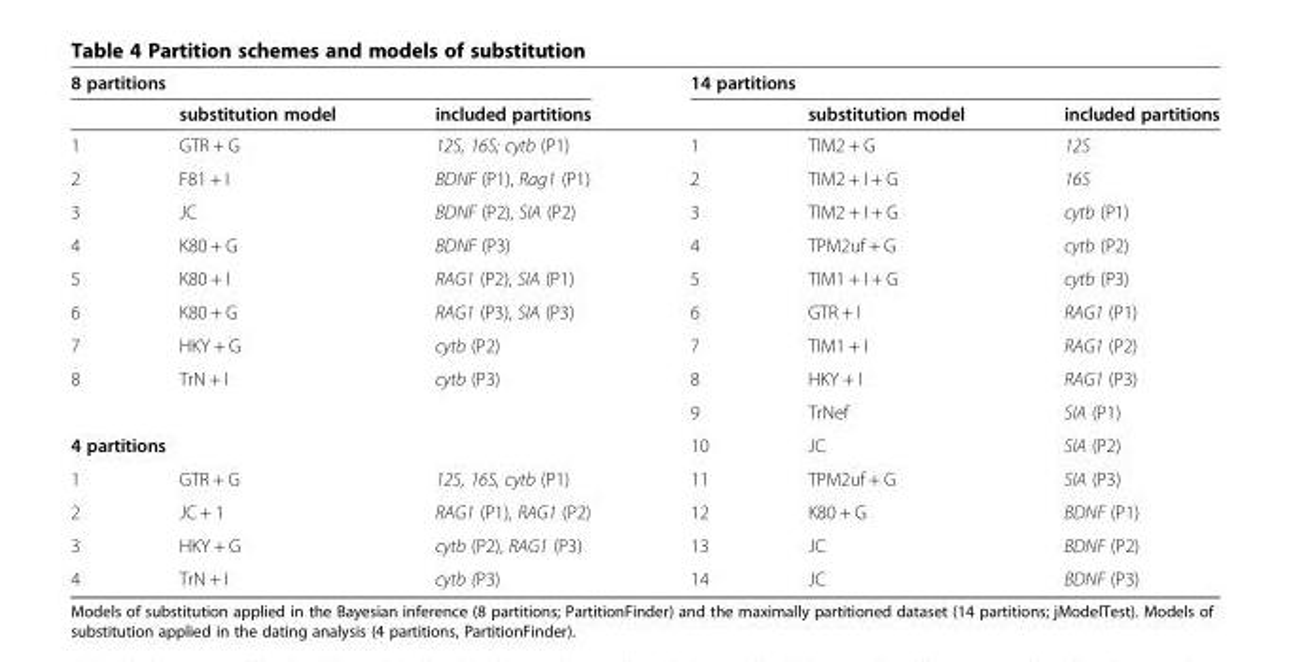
<table><thead><tr><td colspan="3">8 partitions</td><td colspan="3">14 partitions</td></tr><tr><td></td><td>substitution model</td><td>included partitions</td><td></td><td>substitution model</td><td>included partitions</td></tr></thead><tbody><tr><td>1</td><td>GTR + G</td><td>12S, 16S; cytb (P1)</td><td>1</td><td>TIM2 + G</td><td>12S</td></tr><tr><td>2</td><td>F81 + I</td><td>BDNF (P1), Rag1 (P1)</td><td>2</td><td>TIM2 + I + G</td><td>16S</td></tr><tr><td>3</td><td>JC</td><td>BDNF (P2), SIA (P2)</td><td>3</td><td>TIM2 + I + G</td><td>cytb (P1)</td></tr><tr><td>4</td><td>K80 + G</td><td>BDNF (P3)</td><td>4</td><td>TPM2uf + G</td><td>cytb (P2)</td></tr><tr><td>5</td><td>K80 + I</td><td>RAG1 (P2), SIA (P1)</td><td>5</td><td>TIM1 + I + G</td><td>cytb (P3)</td></tr><tr><td>6</td><td>K80 + G</td><td>RAG1 (P3), SIA (P3)</td><td>6</td><td>GTR + I</td><td>RAG1 (P1)</td></tr><tr><td>7</td><td>HKY + G</td><td>cytb (P2)</td><td>7</td><td>TIM1 + I</td><td>RAG1 (P2)</td></tr><tr><td rowspan="2">8</td><td>TrN + I</td><td>cytb (P3)</td><td>8</td><td>HKY + I</td><td>RAG1 (P3)</td></tr><tr><td></td><td></td><td>9</td><td>TrNef</td><td>SIA (P1)</td></tr><tr><td colspan="3">4 partitions</td><td>10</td><td>JC</td><td>SIA (P2)</td></tr><tr><td>1</td><td>GTR + G</td><td>12S, 16S, cytb (P1)</td><td>11</td><td>TPM2uf + G</td><td>SIA (P3)</td></tr><tr><td>2</td><td>JC + 1</td><td>RAG1 (P1), RAG1 (P2)</td><td>12</td><td>K80 + G</td><td>BDNF (P1)</td></tr><tr><td>3</td><td>HKY + G</td><td>cytb (P2), RAG1 (P3)</td><td>13</td><td>JC</td><td>BDNF (P2)</td></tr><tr><td>4</td><td>TrN + I</td><td>cytb (P3)</td><td>14</td><td>JC</td><td>BDNF (P3)</td></tr></tbody></table>